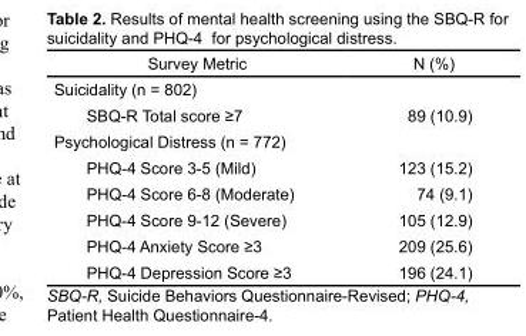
<table><thead><tr><td>Survey Metric</td><td>N (%)</td></tr></thead><tbody><tr><td colspan="2">Suicidality (n = 802)</td></tr><tr><td>SBQ-R Total score ≥7</td><td>89 (10.9)</td></tr><tr><td colspan="2">Psychological Distress (n = 772)</td></tr><tr><td>PHQ-4 Score 3-5 (Mild)</td><td>123 (15.2)</td></tr><tr><td>PHQ-4 Score 6-8 (Moderate)</td><td>74 (9.1)</td></tr><tr><td>PHQ-4 Score 9-12 (Severe)</td><td>105 (12.9)</td></tr><tr><td>PHQ-4 Anxiety Score ≥3</td><td>209 (25.6)</td></tr><tr><td>PHQ-4 Depression Score ≥3</td><td>196 (24.1)</td></tr></tbody></table>